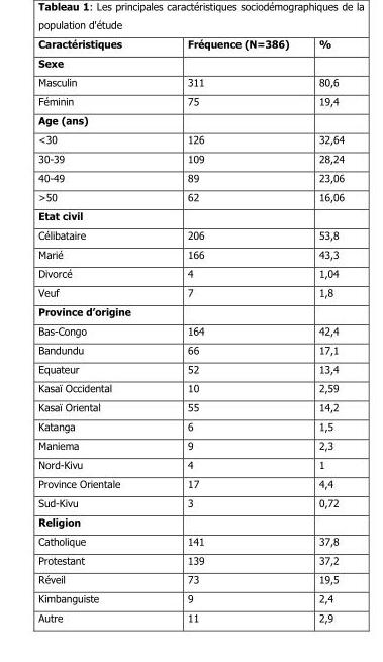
<table><thead><tr><td>Caractéristiques</td><td>Fréquence (N=386)</td><td>%</td></tr></thead><tbody><tr><td colspan="3">Sexe</td></tr><tr><td>Masculin</td><td>311</td><td>80,6</td></tr><tr><td>Féminin</td><td>75</td><td>19,4</td></tr><tr><td colspan="3">Age (ans)</td></tr><tr><td>&lt;30</td><td>126</td><td>32,64</td></tr><tr><td>30-39</td><td>109</td><td>28,24</td></tr><tr><td>40-49</td><td>89</td><td>23,06</td></tr><tr><td>&gt;50</td><td>62</td><td>16,06</td></tr><tr><td colspan="3">Etat civil</td></tr><tr><td>Célibataire</td><td>206</td><td>53,8</td></tr><tr><td>Marié</td><td>166</td><td>43,3</td></tr><tr><td>Divorcé</td><td>4</td><td>1,04</td></tr><tr><td>Veuf</td><td>7</td><td>1,8</td></tr><tr><td colspan="3">Province d’origine</td></tr><tr><td>Bas-Congo</td><td>164</td><td>42,4</td></tr><tr><td>Bandundu</td><td>66</td><td>17,1</td></tr><tr><td>Equateur</td><td>52</td><td>13,4</td></tr><tr><td>Kasaï Occidental</td><td>10</td><td>2,59</td></tr><tr><td>Kasaï Oriental</td><td>55</td><td>14,2</td></tr><tr><td>Katanga</td><td>6</td><td>1,5</td></tr><tr><td>Maniema</td><td>9</td><td>2,3</td></tr><tr><td>Nord-Kivu</td><td>4</td><td>1</td></tr><tr><td>Province Orientale</td><td>17</td><td>4,4</td></tr><tr><td>Sud-Kivu</td><td>3</td><td>0,72</td></tr><tr><td colspan="3">Religion</td></tr><tr><td>Catholique</td><td>141</td><td>37,8</td></tr><tr><td>Protestant</td><td>139</td><td>37,2</td></tr><tr><td>Réveil</td><td>73</td><td>19,5</td></tr><tr><td>Kimbanguiste</td><td>9</td><td>2,4</td></tr><tr><td>Autre</td><td>11</td><td>2,9</td></tr></tbody></table>